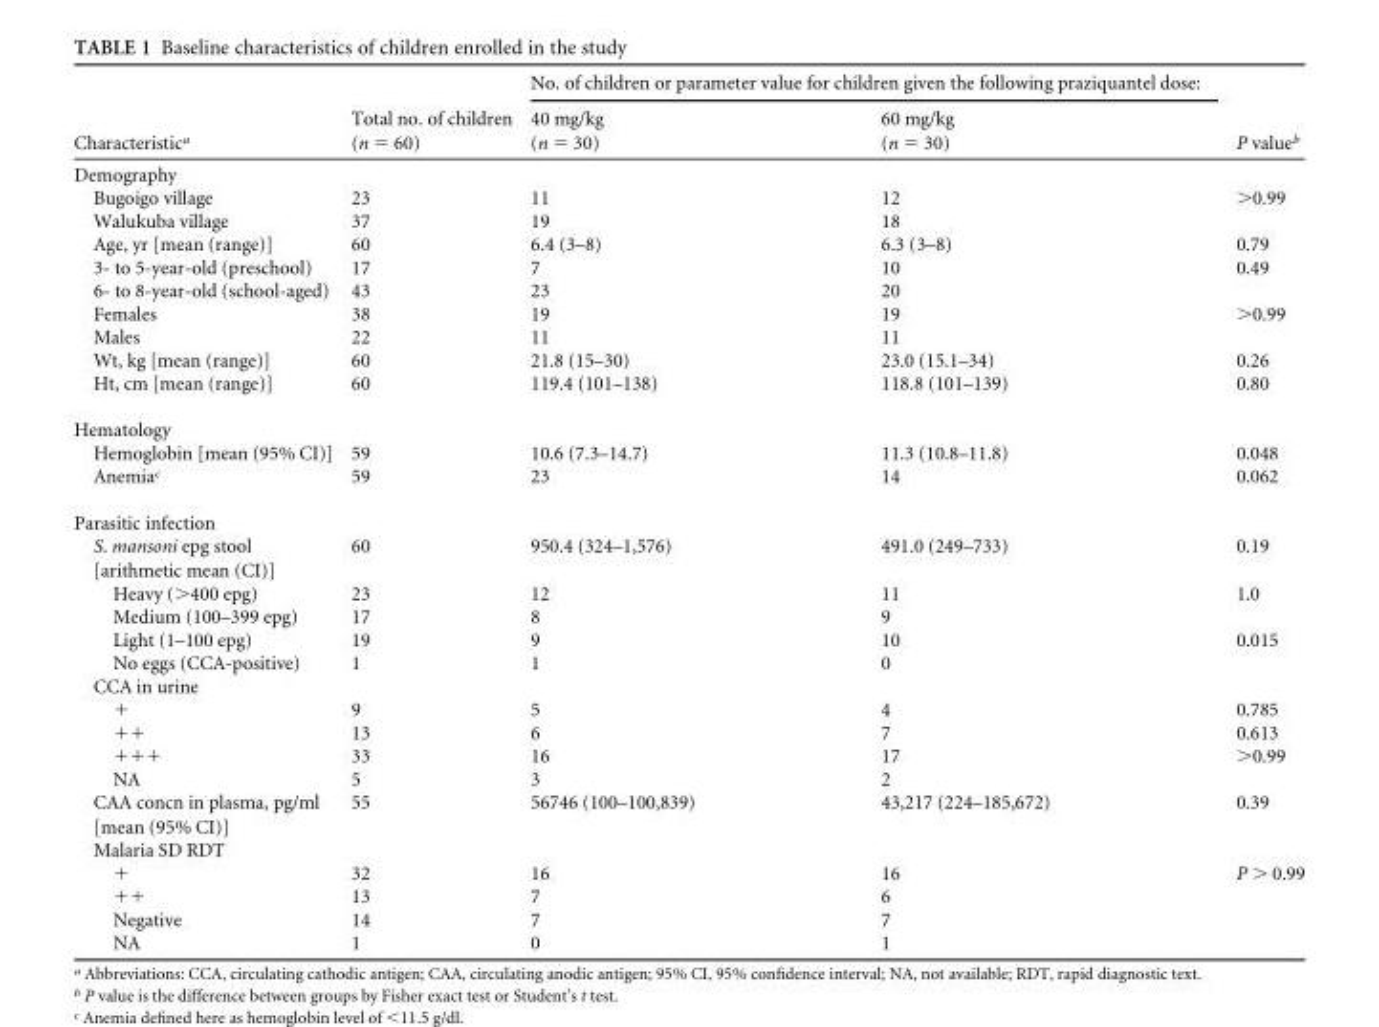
<table><thead><tr><td rowspan="2">Characteristic<sup>a</sup></td><td rowspan="2">Total no. of children (n = 60)</td><td colspan="2">No. of children or parameter value for children given the following praziquantel dose:</td><td rowspan="2">P value<sup>b</sup></td></tr><tr><td>40 mg/kg (n = 30)</td><td>60 mg/kg (n = 30)</td></tr></thead><tbody><tr><td colspan="5">Demography</td></tr><tr><td>Bugoigo village</td><td>23</td><td>11</td><td>12</td><td>&gt;0.99</td></tr><tr><td>Walukuba village</td><td>37</td><td>19</td><td>18</td><td></td></tr><tr><td>Age, yr [mean (range)]</td><td>60</td><td>6.4 (3–8)</td><td>6.3 (3–8)</td><td>0.79</td></tr><tr><td>3- to 5-year-old (preschool)</td><td>17</td><td>7</td><td>10</td><td>0.49</td></tr><tr><td>6- to 8-year-old (school-aged)</td><td>43</td><td>23</td><td>20</td><td></td></tr><tr><td>Females</td><td>38</td><td>19</td><td>19</td><td>&gt;0.99</td></tr><tr><td>Males</td><td>22</td><td>11</td><td>11</td><td></td></tr><tr><td>Wt, kg [mean (range)]</td><td>60</td><td>21.8 (15–30)</td><td>23.0 (15.1–34)</td><td>0.26</td></tr><tr><td>Ht, cm [mean (range)]</td><td>60</td><td>119.4 (101–138)</td><td>118.8 (101–139)</td><td>0.80</td></tr><tr><td colspan="5">Hematology</td></tr><tr><td>Hemoglobin [mean (95% CI)]</td><td>59</td><td>10.6 (7.3–14.7)</td><td>11.3 (10.8–11.8)</td><td>0.048</td></tr><tr><td>Anemia<sup>c</sup></td><td>59</td><td>23</td><td>14</td><td>0.062</td></tr><tr><td colspan="5">Parasitic infection</td></tr><tr><td>S. mansoni epg stool [arithmetic mean (CI)]</td><td>60</td><td>950.4 (324–1,576)</td><td>491.0 (249–733)</td><td>0.19</td></tr><tr><td>Heavy (&gt;400 epg)</td><td>23</td><td>12</td><td>11</td><td>1.0</td></tr><tr><td>Medium (100–399 epg)</td><td>17</td><td>8</td><td>9</td><td></td></tr><tr><td>Light (1–100 epg)</td><td>19</td><td>9</td><td>10</td><td>0.015</td></tr><tr><td>No eggs (CCA-positive)</td><td>1</td><td>1</td><td>0</td><td></td></tr><tr><td colspan="5">CCA in urine</td></tr><tr><td>+</td><td>9</td><td>5</td><td>4</td><td>0.785</td></tr><tr><td>++</td><td>13</td><td>6</td><td>7</td><td>0.613</td></tr><tr><td>+++</td><td>33</td><td>16</td><td>17</td><td>&gt;0.99</td></tr><tr><td>NA</td><td>5</td><td>3</td><td>2</td><td></td></tr><tr><td>CAA concn in plasma, pg/ml [mean (95% CI)]</td><td>55</td><td>56746 (100–100,839)</td><td>43,217 (224–185,672)</td><td>0.39</td></tr><tr><td colspan="5">Malaria SD RDT</td></tr><tr><td>+</td><td>32</td><td>16</td><td>16</td><td>P &gt; 0.99</td></tr><tr><td>++</td><td>13</td><td>7</td><td>6</td><td></td></tr><tr><td>Negative</td><td>14</td><td>7</td><td>7</td><td></td></tr><tr><td>NA</td><td>1</td><td>0</td><td>1</td><td></td></tr></tbody></table>